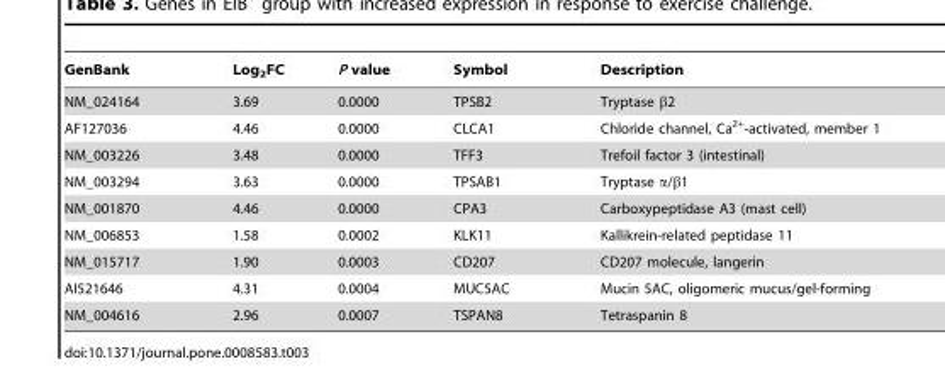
<table><thead><tr><td>GenBank</td><td>Log<sub>2</sub>FC</td><td>P value</td><td>Symbol</td><td>Description</td></tr></thead><tbody><tr><td>NM_024164</td><td>3.69</td><td>0.0000</td><td>TPSB2</td><td>Tryptase β2</td></tr><tr><td>AF127036</td><td>4.46</td><td>0.0000</td><td>CLCA1</td><td>Chloride channel, Ca<sup>2+</sup>-activated, member 1</td></tr><tr><td>NM_003226</td><td>3.48</td><td>0.0000</td><td>TFF3</td><td>Trefoil factor 3 (intestinal)</td></tr><tr><td>NM_003294</td><td>3.63</td><td>0.0000</td><td>TPSAB1</td><td>Tryptase α/β1</td></tr><tr><td>NM_001870</td><td>4.46</td><td>0.0000</td><td>CPA3</td><td>Carboxypeptidase A3 (mast cell)</td></tr><tr><td>NM_006853</td><td>1.58</td><td>0.0002</td><td>KLK11</td><td>Kallikrein-related peptidase 11</td></tr><tr><td>NM_015717</td><td>1.90</td><td>0.0003</td><td>CD207</td><td>CD207 molecule, langerin</td></tr><tr><td>AI521646</td><td>4.31</td><td>0.0004</td><td>MUC5AC</td><td>Mucin 5AC, oligomeric mucus/gel-forming</td></tr><tr><td>NM_004616</td><td>2.96</td><td>0.0007</td><td>TSPAN8</td><td>Tetraspanin 8</td></tr></tbody></table>